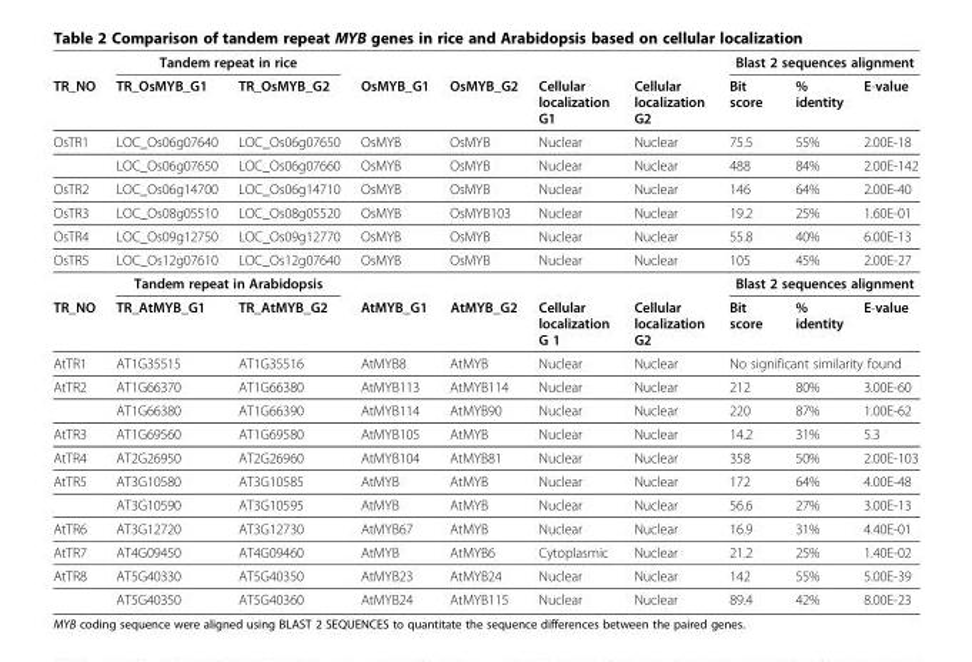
<table><thead><tr><td rowspan="2">TR_NO</td><td colspan="2">Tandem repeat in rice</td><td rowspan="2">OsMYB_G1</td><td rowspan="2">OsMYB_G2</td><td rowspan="2">Cellular localization G1</td><td rowspan="2">Cellular localization G2</td><td colspan="3">Blast 2 sequences alignment</td></tr><tr><td>TR_OsMYB_G1</td><td>TR_OsMYB_G2</td><td>Bit score</td><td>% identity</td><td>E-value</td></tr></thead><tbody><tr><td rowspan="2">OsTR1</td><td>LOC_Os06g07640</td><td>LOC_Os06g07650</td><td>OsMYB</td><td>OsMYB</td><td>Nuclear</td><td>Nuclear</td><td>75.5</td><td>55%</td><td>2.00E-18</td></tr><tr><td>LOC_Os06g07650</td><td>LOC_Os06g07660</td><td>OsMYB</td><td>OsMYB</td><td>Nuclear</td><td>Nuclear</td><td>488</td><td>84%</td><td>2.00E-142</td></tr><tr><td>OsTR2</td><td>LOC_Os06g14700</td><td>LOC_Os06g14710</td><td>OsMYB</td><td>OsMYB</td><td>Nuclear</td><td>Nuclear</td><td>146</td><td>64%</td><td>2.00E-40</td></tr><tr><td>OsTR3</td><td>LOC_Os08g05510</td><td>LOC_Os08g05520</td><td>OsMYB</td><td>OsMYB103</td><td>Nuclear</td><td>Nuclear</td><td>19.2</td><td>25%</td><td>1.60E-01</td></tr><tr><td>OsTR4</td><td>LOC_Os09g12750</td><td>LOC_Os09g12770</td><td>OsMYB</td><td>OsMYB</td><td>Nuclear</td><td>Nuclear</td><td>55.8</td><td>40%</td><td>6.00E-13</td></tr><tr><td rowspan="2">OsTR5</td><td>LOC_Os12g07610</td><td>LOC_Os12g07640</td><td>OsMYB</td><td>OsMYB</td><td>Nuclear</td><td>Nuclear</td><td>105</td><td>45%</td><td>2.00E-27</td></tr><tr><td colspan="2">Tandem repeat in Arabidopsis</td><td></td><td></td><td></td><td></td><td colspan="3">Blast 2 sequences alignment</td></tr><tr><td>TR_NO</td><td>TR_AtMYB_G1</td><td>TR_AtMYB_G2</td><td>AtMYB_G1</td><td>AtMYB_G2</td><td>Cellular localization G 1</td><td>Cellular localization G2</td><td>Bit score</td><td>% identity</td><td>E-value</td></tr><tr><td>AtTR1</td><td>AT1G35515</td><td>AT1G35516</td><td>AtMYB8</td><td>AtMYB</td><td>Nuclear</td><td>Nuclear</td><td colspan="3">No significant similarity found</td></tr><tr><td rowspan="2">AtTR2</td><td>AT1G66370</td><td>AT1G66380</td><td>AtMYB113</td><td>AtMYB114</td><td>Nuclear</td><td>Nuclear</td><td>212</td><td>80%</td><td>3.00E-60</td></tr><tr><td>AT1G66380</td><td>AT1G66390</td><td>AtMYB114</td><td>AtMYB90</td><td>Nuclear</td><td>Nuclear</td><td>220</td><td>87%</td><td>1.00E-62</td></tr><tr><td>AtTR3</td><td>AT1G69560</td><td>AT1G69580</td><td>AtMYB105</td><td>AtMYB</td><td>Nuclear</td><td>Nuclear</td><td>14.2</td><td>31%</td><td>5.3</td></tr><tr><td>AtTR4</td><td>AT2G26950</td><td>AT2G26960</td><td>AtMYB104</td><td>AtMYB81</td><td>Nuclear</td><td>Nuclear</td><td>358</td><td>50%</td><td>2.00E-103</td></tr><tr><td rowspan="2">AtTR5</td><td>AT3G10580</td><td>AT3G10585</td><td>AtMYB</td><td>AtMYB</td><td>Nuclear</td><td>Nuclear</td><td>172</td><td>64%</td><td>4.00E-48</td></tr><tr><td>AT3G10590</td><td>AT3G10595</td><td>AtMYB</td><td>AtMYB</td><td>Nuclear</td><td>Nuclear</td><td>56.6</td><td>27%</td><td>3.00E-13</td></tr><tr><td>AtTR6</td><td>AT3G12720</td><td>AT3G12730</td><td>AtMYB67</td><td>AtMYB</td><td>Nuclear</td><td>Nuclear</td><td>16.9</td><td>31%</td><td>4.40E-01</td></tr><tr><td>AtTR7</td><td>AT4G09450</td><td>AT4G09460</td><td>AtMYB</td><td>AtMYB6</td><td>Cytoplasmic</td><td>Nuclear</td><td>21.2</td><td>25%</td><td>1.40E-02</td></tr><tr><td rowspan="2">AtTR8</td><td>AT5G40330</td><td>AT5G40350</td><td>AtMYB23</td><td>AtMYB24</td><td>Nuclear</td><td>Nuclear</td><td>142</td><td>55%</td><td>5.00E-39</td></tr><tr><td>AT5G40350</td><td>AT5G40360</td><td>AtMYB24</td><td>AtMYB115</td><td>Nuclear</td><td>Nuclear</td><td>89.4</td><td>42%</td><td>8.00E-23</td></tr></tbody></table>